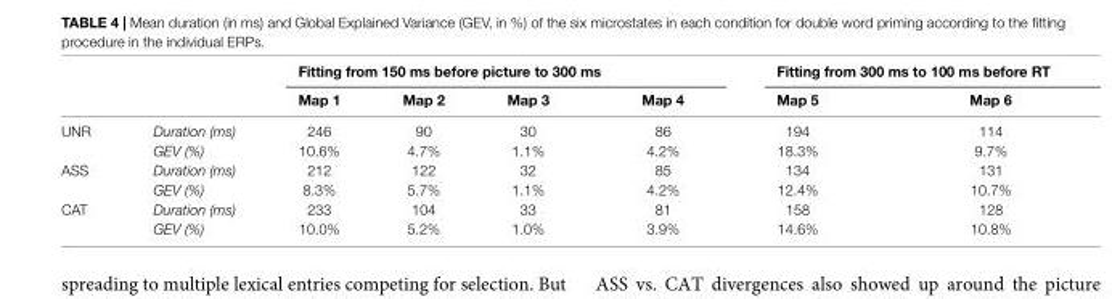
<table><thead><tr><td rowspan="2"></td><td rowspan="2"></td><td colspan="4">Fitting from 150 ms before picture to 300 ms</td><td colspan="2">Fitting from 300 ms to 100 ms before RT</td></tr><tr><td>Map 1</td><td>Map 2</td><td>Map 3</td><td>Map 4</td><td>Map 5</td><td>Map 6</td></tr></thead><tbody><tr><td rowspan="2">UNR</td><td>Duration (ms)</td><td>246</td><td>90</td><td>30</td><td>86</td><td>194</td><td>114</td></tr><tr><td>GEV (%)</td><td>10.6%</td><td>4.7%</td><td>1.1%</td><td>4.2%</td><td>18.3%</td><td>9.7%</td></tr><tr><td rowspan="2">ASS</td><td>Duration (ms)</td><td>212</td><td>122</td><td>32</td><td>85</td><td>134</td><td>131</td></tr><tr><td>GEV (%)</td><td>8.3%</td><td>5.7%</td><td>1.1%</td><td>4.2%</td><td>12.4%</td><td>10.7%</td></tr><tr><td rowspan="2">CAT</td><td>Duration (ms)</td><td>233</td><td>104</td><td>33</td><td>81</td><td>158</td><td>128</td></tr><tr><td>GEV (%)</td><td>10.0%</td><td>5.2%</td><td>1.0%</td><td>3.9%</td><td>14.6%</td><td>10.8%</td></tr></tbody></table>